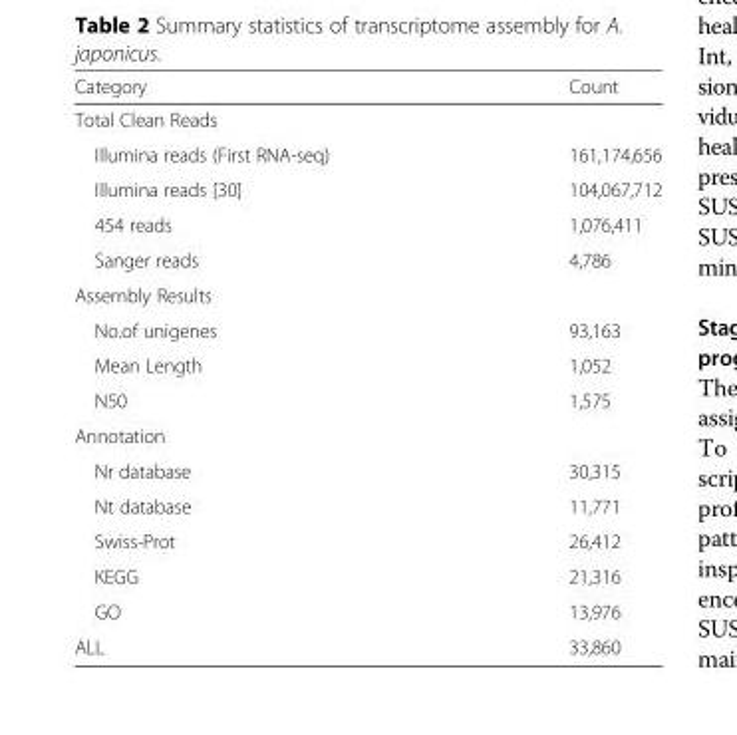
<table><thead><tr><td>Category</td><td>Count</td></tr></thead><tbody><tr><td colspan="2">Total Clean Reads</td></tr><tr><td>Illumina reads (First RNA-seq)</td><td>161,174,656</td></tr><tr><td>Illumina reads [30]</td><td>104,067,712</td></tr><tr><td>454 reads</td><td>1,076,411</td></tr><tr><td>Sanger reads</td><td>4,786</td></tr><tr><td colspan="2">Assembly Results</td></tr><tr><td>No.of unigenes</td><td>93,163</td></tr><tr><td>Mean Length</td><td>1,052</td></tr><tr><td>N50</td><td>1,575</td></tr><tr><td colspan="2">Annotation</td></tr><tr><td>Nr database</td><td>30,315</td></tr><tr><td>Nt database</td><td>11,771</td></tr><tr><td>Swiss-Prot</td><td>26,412</td></tr><tr><td>KEGG</td><td>21,316</td></tr><tr><td>GO</td><td>13,976</td></tr><tr><td>ALL</td><td>33,860</td></tr></tbody></table>